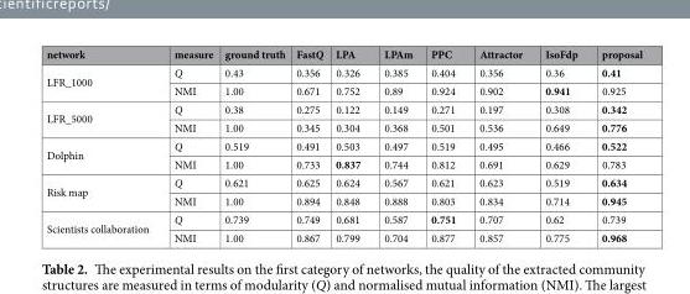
<table><thead><tr><td>network</td><td>measure</td><td>ground truth</td><td>FastQ</td><td>LPA</td><td>LPAm</td><td>PPC</td><td>Attractor</td><td>IsoFdp</td><td>proposal</td></tr></thead><tbody><tr><td rowspan="2">LFR_1000</td><td>Q</td><td>0.43</td><td>0.356</td><td>0.326</td><td>0.385</td><td>0.404</td><td>0.356</td><td>0.36</td><td>0.41</td></tr><tr><td>NMI</td><td>1.00</td><td>0.671</td><td>0.752</td><td>0.89</td><td>0.924</td><td>0.902</td><td>0.941</td><td>0.925</td></tr><tr><td rowspan="2">LFR_5000</td><td>Q</td><td>0.38</td><td>0.275</td><td>0.122</td><td>0.149</td><td>0.271</td><td>0.197</td><td>0.308</td><td>0.342</td></tr><tr><td>NMI</td><td>1.00</td><td>0.345</td><td>0.304</td><td>0.368</td><td>0.501</td><td>0.536</td><td>0.649</td><td>0.776</td></tr><tr><td rowspan="2">Dolphin</td><td>Q</td><td>0.519</td><td>0.491</td><td>0.503</td><td>0.497</td><td>0.519</td><td>0.495</td><td>0.466</td><td>0.522</td></tr><tr><td>NMI</td><td>1.00</td><td>0.733</td><td>0.837</td><td>0.744</td><td>0.812</td><td>0.691</td><td>0.629</td><td>0.783</td></tr><tr><td rowspan="2">Risk map</td><td>Q</td><td>0.621</td><td>0.625</td><td>0.624</td><td>0.567</td><td>0.621</td><td>0.623</td><td>0.519</td><td>0.634</td></tr><tr><td>NMI</td><td>1.00</td><td>0.894</td><td>0.848</td><td>0.888</td><td>0.803</td><td>0.834</td><td>0.714</td><td>0.945</td></tr><tr><td rowspan="2">Scientists collaboration</td><td>Q</td><td>0.739</td><td>0.749</td><td>0.681</td><td>0.587</td><td>0.751</td><td>0.707</td><td>0.62</td><td>0.739</td></tr><tr><td>NMI</td><td>1.00</td><td>0.867</td><td>0.799</td><td>0.704</td><td>0.877</td><td>0.857</td><td>0.775</td><td>0.968</td></tr></tbody></table>